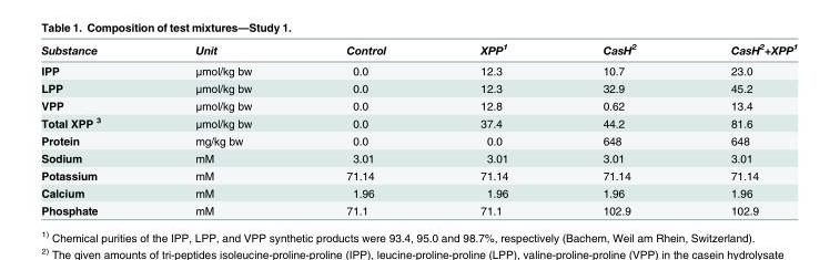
<table><thead><tr><td>Substance</td><td>Unit</td><td>Control</td><td>XPP<sup>1</sup></td><td>CasH<sup>2</sup></td><td>CasH<sup>2</sup>+XPP<sup>1</sup></td></tr></thead><tbody><tr><td>IPP</td><td>μmol/kg bw</td><td>0.0</td><td>12.3</td><td>10.7</td><td>23.0</td></tr><tr><td>LPP</td><td>μmol/kg bw</td><td>0.0</td><td>12.3</td><td>32.9</td><td>45.2</td></tr><tr><td>VPP</td><td>μmol/kg bw</td><td>0.0</td><td>12.8</td><td>0.62</td><td>13.4</td></tr><tr><td>Total XPP <sup>3</sup></td><td>μmol/kg bw</td><td>0.0</td><td>37.4</td><td>44.2</td><td>81.6</td></tr><tr><td>Protein</td><td>mg/kg bw</td><td>0.0</td><td>0.0</td><td>648</td><td>648</td></tr><tr><td>Sodium</td><td>mM</td><td>3.01</td><td>3.01</td><td>3.01</td><td>3.01</td></tr><tr><td>Potassium</td><td>mM</td><td>71.14</td><td>71.14</td><td>71.14</td><td>71.14</td></tr><tr><td>Calcium</td><td>mM</td><td>1.96</td><td>1.96</td><td>1.96</td><td>1.96</td></tr><tr><td>Phosphate</td><td>mM</td><td>71.1</td><td>71.1</td><td>102.9</td><td>102.9</td></tr></tbody></table>